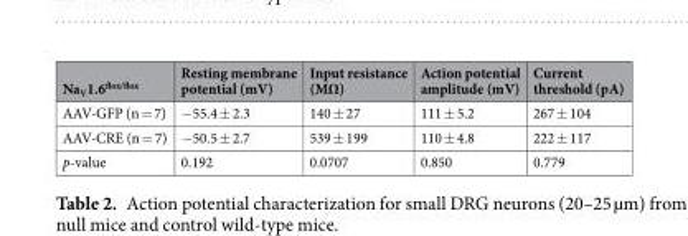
<table><thead><tr><td>Na<sub>V</sub>1.6<sup>flox/flox</sup></td><td>Resting membrane potential (mV)</td><td>Input resistance (MΩ)</td><td>Action potential amplitude (mV)</td><td>Current threshold (pA)</td></tr></thead><tbody><tr><td>AAV-GFP (n = 7)</td><td>−55.4 ± 2.3</td><td>140 ± 27</td><td>111 ± 5.2</td><td>267 ± 104</td></tr><tr><td>AAV-CRE (n = 7)</td><td>−50.5 ± 2.7</td><td>539 ± 199</td><td>110 ± 4.8</td><td>222 ± 117</td></tr><tr><td>p-value</td><td>0.192</td><td>0.0707</td><td>0.850</td><td>0.779</td></tr></tbody></table>